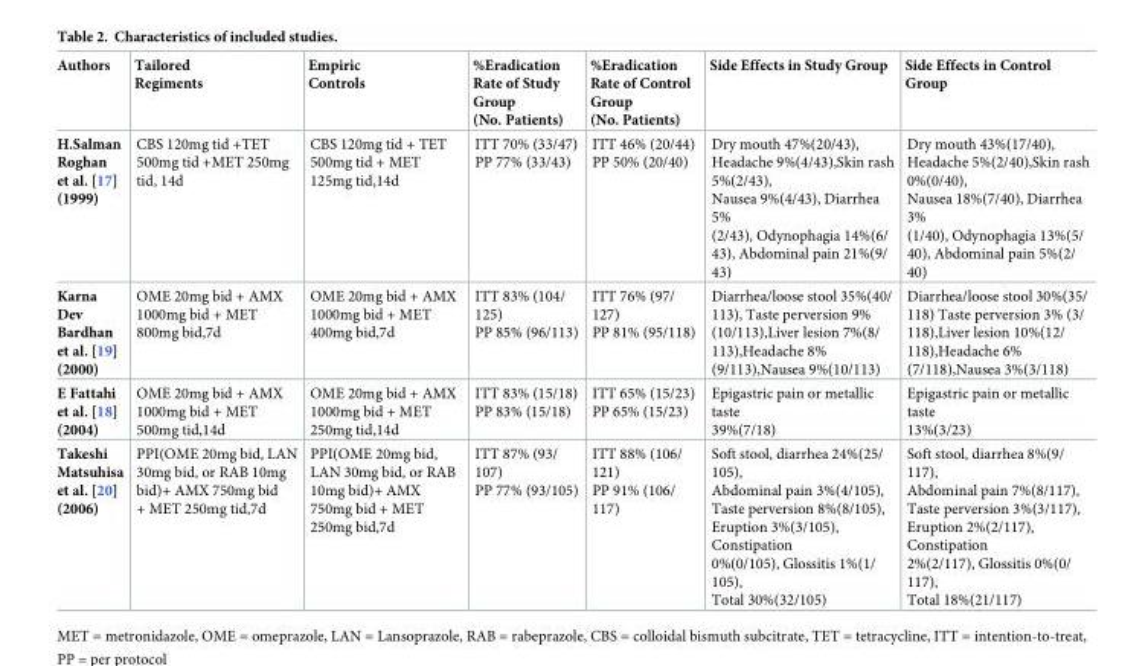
<table><thead><tr><td>Authors</td><td>Tailored Regiments</td><td>Empiric Controls</td><td>%Eradication Rate of Study Group (No. Patients)</td><td>%Eradication Rate of Control Group (No. Patients)</td><td>Side Effects in Study Group</td><td>Side Effects in Control Group</td></tr></thead><tbody><tr><td>H.Salman Roghan et al. [17] (1999)</td><td>CBS 120mg tid +TET 500mg tid +MET 250mg tid, 14d</td><td>CBS 120mg tid + TET 500mg tid + MET 125mg tid,14d</td><td>ITT 70% (33/47) PP 77% (33/43)</td><td>ITT 46% (20/44) PP 50% (20/40)</td><td>Dry mouth 47%(20/43), Headache 9%(4/43),Skin rash 5%(2/43), Nausea 9%(4/43), Diarrhea 5% (2/43), Odynophagia 14%(6/ 43), Abdominal pain 21%(9/ 43)</td><td>Dry mouth 43%(17/40), Headache 5%(2/40),Skin rash 0%(0/40), Nausea 18%(7/40), Diarrhea 3% (1/40), Odynophagia 13%(5/ 40), Abdominal pain 5%(2/ 40)</td></tr><tr><td>Karna Dev Bardhan et al. [19] (2000)</td><td>OME 20mg bid + AMX 1000mg bid + MET 800mg bid,7d</td><td>OME 20mg bid + AMX 1000mg bid + MET 400mg bid,7d</td><td>ITT 83% (104/ 125) PP 85% (96/113)</td><td>ITT 76% (97/ 127) PP 81% (95/118)</td><td>Diarrhea/loose stool 35%(40/ 113), Taste perversion 9% (10/113),Liver lesion 7%(8/ 113),Headache 8% (9/113),Nausea 9%(10/113)</td><td>Diarrhea/loose stool 30%(35/ 118) Taste perversion 3% (3/ 118),Liver lesion 10%(12/ 118),Headache 6% (7/118),Nausea 3%(3/118)</td></tr><tr><td>E Fattahi et al. [18] (2004)</td><td>OME 20mg bid + AMX 1000mg bid + MET 500mg tid,14d</td><td>OME 20mg bid + AMX 1000mg bid + MET 250mg tid,14d</td><td>ITT 83% (15/18) PP 83% (15/18)</td><td>ITT 65% (15/23) PP 65% (15/23)</td><td>Epigastric pain or metallic taste 39%(7/18)</td><td>Epigastric pain or metallic taste 13%(3/23)</td></tr><tr><td>Takeshi Matsuhisa et al. [20] (2006)</td><td>PPI(OME 20mg bid, LAN 30mg bid, or RAB 10mg bid)+ AMX 750mg bid + MET 250mg tid,7d</td><td>PPI(OME 20mg bid, LAN 30mg bid, or RAB 10mg bid)+ AMX 750mg bid + MET 250mg bid,7d</td><td>ITT 87% (93/ 107) PP 77% (93/105)</td><td>ITT 88% (106/ 121) PP 91% (106/ 117)</td><td>Soft stool, diarrhea 24%(25/ 105), Abdominal pain 3%(4/105), Taste perversion 8%(8/105), Eruption 3%(3/105), Constipation 0%(0/105), Glossitis 1%(1/ 105), Total 30%(32/105)</td><td>Soft stool, diarrhea 8%(9/ 117), Abdominal pain 7%(8/117), Taste perversion 3%(3/117), Eruption 2%(2/117), Constipation 2%(2/117), Glossitis 0%(0/ 117), Total 18%(21/117)</td></tr></tbody></table>